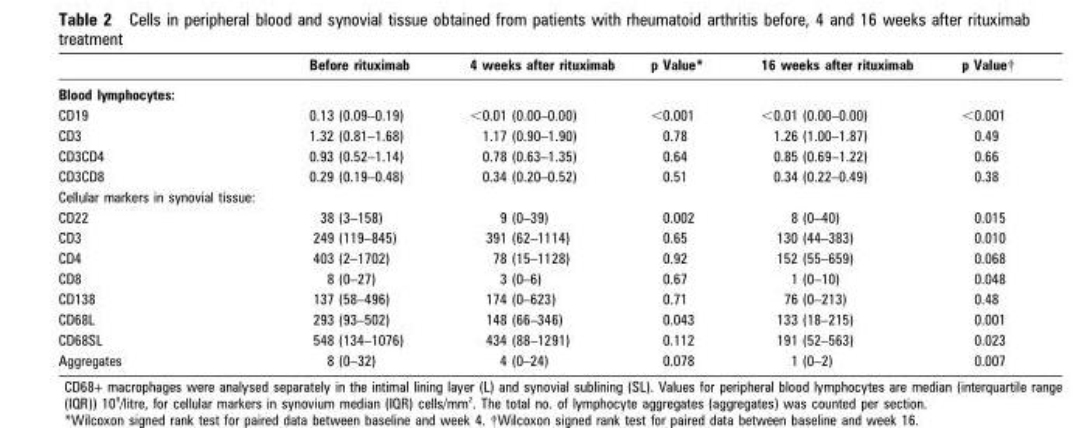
<table><thead><tr><td></td><td>Before rituximab</td><td>4 weeks after rituximab</td><td>p Value*</td><td>16 weeks after rituximab</td><td>p Value†</td></tr></thead><tbody><tr><td colspan="6">Blood lymphocytes:</td></tr><tr><td>CD19</td><td>0.13 (0.09–0.19)</td><td>&lt;0.01 (0.00–0.00)</td><td>&lt;0.001</td><td>&lt;0.01 (0.00–0.00)</td><td>&lt;0.001</td></tr><tr><td>CD3</td><td>1.32 (0.81–1.68)</td><td>1.17 (0.90–1.90)</td><td>0.78</td><td>1.26 (1.00–1.87)</td><td>0.49</td></tr><tr><td>CD3CD4</td><td>0.93 (0.52–1.14)</td><td>0.78 (0.63–1.35)</td><td>0.64</td><td>0.85 (0.69–1.22)</td><td>0.66</td></tr><tr><td>CD3CD8</td><td>0.29 (0.19–0.48)</td><td>0.34 (0.20–0.52)</td><td>0.51</td><td>0.34 (0.22–0.49)</td><td>0.38</td></tr><tr><td colspan="6">Cellular markers in synovial tissue:</td></tr><tr><td>CD22</td><td>38 (3–158)</td><td>9 (0–39)</td><td>0.002</td><td>8 (0–40)</td><td>0.015</td></tr><tr><td>CD3</td><td>249 (119–845)</td><td>391 (62–1114)</td><td>0.65</td><td>130 (44–383)</td><td>0.010</td></tr><tr><td>CD4</td><td>403 (2–1702)</td><td>78 (15–1128)</td><td>0.92</td><td>152 (55–659)</td><td>0.068</td></tr><tr><td>CD8</td><td>8 (0–27)</td><td>3 (0–6)</td><td>0.67</td><td>1 (0–10)</td><td>0.048</td></tr><tr><td>CD138</td><td>137 (58–496)</td><td>174 (0–623)</td><td>0.71</td><td>76 (0–213)</td><td>0.48</td></tr><tr><td>CD68L</td><td>293 (93–502)</td><td>148 (66–346)</td><td>0.043</td><td>133 (18–215)</td><td>0.001</td></tr><tr><td>CD68SL</td><td>548 (134–1076)</td><td>434 (88–1291)</td><td>0.112</td><td>191 (52–563)</td><td>0.023</td></tr><tr><td>Aggregates</td><td>8 (0–32)</td><td>4 (0–24)</td><td>0.078</td><td>1 (0–2)</td><td>0.007</td></tr></tbody></table>